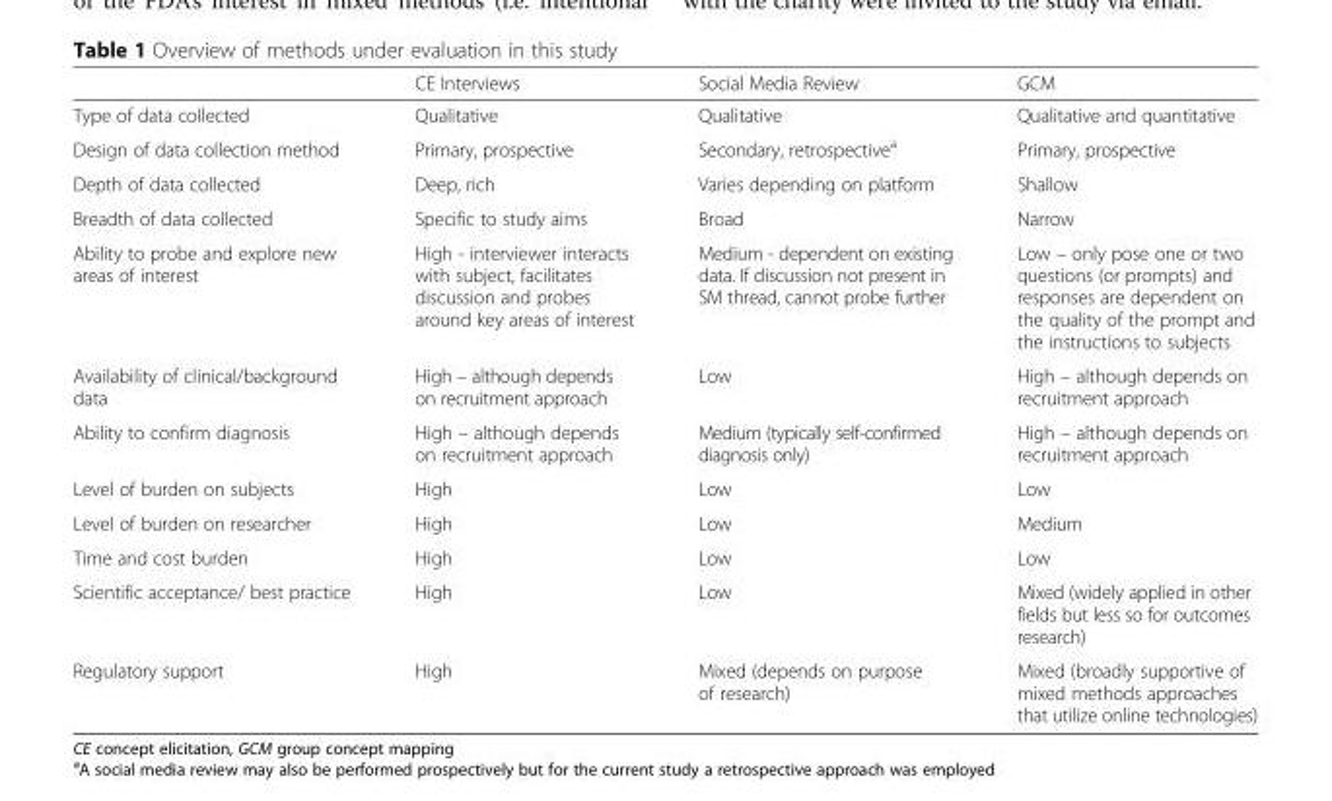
<table><thead><tr><td></td><td>CE Interviews</td><td>Social Media Review</td><td>GCM</td></tr></thead><tbody><tr><td>Type of data collected</td><td>Qualitative</td><td>Qualitative</td><td>Qualitative and quantitative</td></tr><tr><td>Design of data collection method</td><td>Primary, prospective</td><td>Secondary, retrospective<sup>a</sup></td><td>Primary, prospective</td></tr><tr><td>Depth of data collected</td><td>Deep, rich</td><td>Varies depending on platform</td><td>Shallow</td></tr><tr><td>Breadth of data collected</td><td>Specific to study aims</td><td>Broad</td><td>Narrow</td></tr><tr><td>Ability to probe and explore new areas of interest</td><td>High - interviewer interacts with subject, facilitates discussion and probes around key areas of interest</td><td>Medium - dependent on existing data. If discussion not present in SM thread, cannot probe further</td><td>Low – only pose one or two questions (or prompts) and responses are dependent on the quality of the prompt and the instructions to subjects</td></tr><tr><td>Availability of clinical/background data</td><td>High – although depends on recruitment approach</td><td>Low</td><td>High – although depends on recruitment approach</td></tr><tr><td>Ability to confirm diagnosis</td><td>High – although depends on recruitment approach</td><td>Medium (typically self-confirmed diagnosis only)</td><td>High – although depends on recruitment approach</td></tr><tr><td>Level of burden on subjects</td><td>High</td><td>Low</td><td>Low</td></tr><tr><td>Level of burden on researcher</td><td>High</td><td>Low</td><td>Medium</td></tr><tr><td>Time and cost burden</td><td>High</td><td>Low</td><td>Low</td></tr><tr><td>Scientific acceptance/ best practice</td><td>High</td><td>Low</td><td>Mixed (widely applied in other fields but less so for outcomes research)</td></tr><tr><td>Regulatory support</td><td>High</td><td>Mixed (depends on purpose of research)</td><td>Mixed (broadly supportive of mixed methods approaches that utilize online technologies)</td></tr></tbody></table>